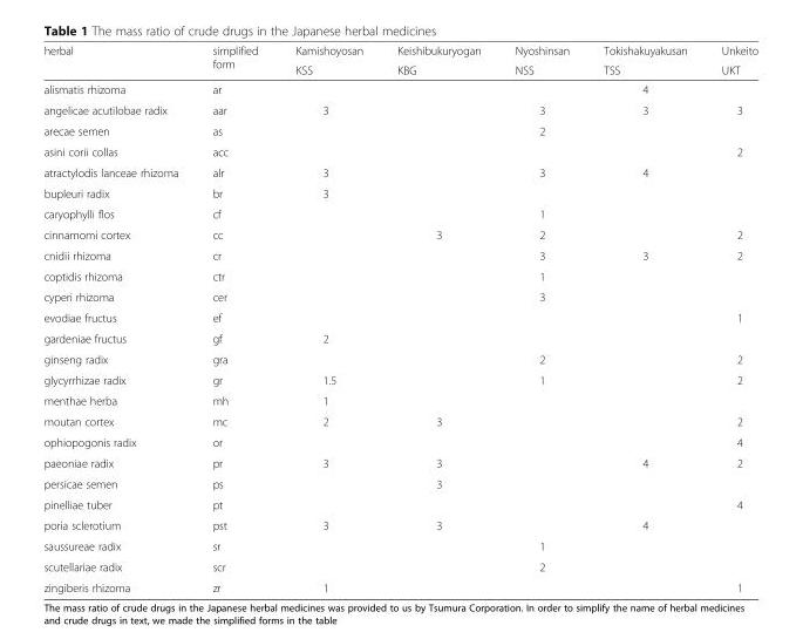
<table><thead><tr><td rowspan="2">herbal</td><td rowspan="2">simplified form</td><td rowspan="2">Kamishoyosan KSS</td><td rowspan="2">Keishibukuryogan KBG</td><td rowspan="2">Nyoshinsan NSS</td><td rowspan="2">Tokishakuyakusan TSS</td><td rowspan="2">Unkeito UKT</td></tr><tr></tr></thead><tbody><tr><td>alismatis rhizoma</td><td>ar</td><td></td><td></td><td></td><td>4</td><td></td></tr><tr><td>angelicae acutilobae radix</td><td>aar</td><td>3</td><td></td><td>3</td><td>3</td><td>3</td></tr><tr><td>arecae semen</td><td>as</td><td></td><td></td><td>2</td><td></td><td></td></tr><tr><td>asini corii collas</td><td>acc</td><td></td><td></td><td></td><td></td><td>2</td></tr><tr><td>atractylodis lanceae rhizoma</td><td>alr</td><td>3</td><td></td><td>3</td><td>4</td><td></td></tr><tr><td>bupleuri radix</td><td>br</td><td>3</td><td></td><td></td><td></td><td></td></tr><tr><td>caryophylli flos</td><td>cf</td><td></td><td></td><td>1</td><td></td><td></td></tr><tr><td>cinnamomi cortex</td><td>cc</td><td></td><td>3</td><td>2</td><td></td><td>2</td></tr><tr><td>cnidii rhizoma</td><td>cr</td><td></td><td></td><td>3</td><td>3</td><td>2</td></tr><tr><td>coptidis rhizoma</td><td>ctr</td><td></td><td></td><td>1</td><td></td><td></td></tr><tr><td>cyperi rhizoma</td><td>cer</td><td></td><td></td><td>3</td><td></td><td></td></tr><tr><td>evodiae fructus</td><td>ef</td><td></td><td></td><td></td><td></td><td>1</td></tr><tr><td>gardeniae fructus</td><td>gf</td><td>2</td><td></td><td></td><td></td><td></td></tr><tr><td>ginseng radix</td><td>gra</td><td></td><td></td><td>2</td><td></td><td>2</td></tr><tr><td>glycyrrhizae radix</td><td>gr</td><td>1.5</td><td></td><td>1</td><td></td><td>2</td></tr><tr><td>menthae herba</td><td>mh</td><td>1</td><td></td><td></td><td></td><td></td></tr><tr><td>moutan cortex</td><td>mc</td><td>2</td><td>3</td><td></td><td></td><td>2</td></tr><tr><td>ophiopogonis radix</td><td>or</td><td></td><td></td><td></td><td></td><td>4</td></tr><tr><td>paeoniae radix</td><td>pr</td><td>3</td><td>3</td><td></td><td>4</td><td>2</td></tr><tr><td>persicae semen</td><td>ps</td><td></td><td>3</td><td></td><td></td><td></td></tr><tr><td>pinelliae tuber</td><td>pt</td><td></td><td></td><td></td><td></td><td>4</td></tr><tr><td>poria sclerotium</td><td>pst</td><td>3</td><td>3</td><td></td><td>4</td><td></td></tr><tr><td>saussureae radix</td><td>sr</td><td></td><td></td><td>1</td><td></td><td></td></tr><tr><td>scutellariae radix</td><td>scr</td><td></td><td></td><td>2</td><td></td><td></td></tr><tr><td>zingiberis rhizoma</td><td>zr</td><td>1</td><td></td><td></td><td></td><td>1</td></tr></tbody></table>